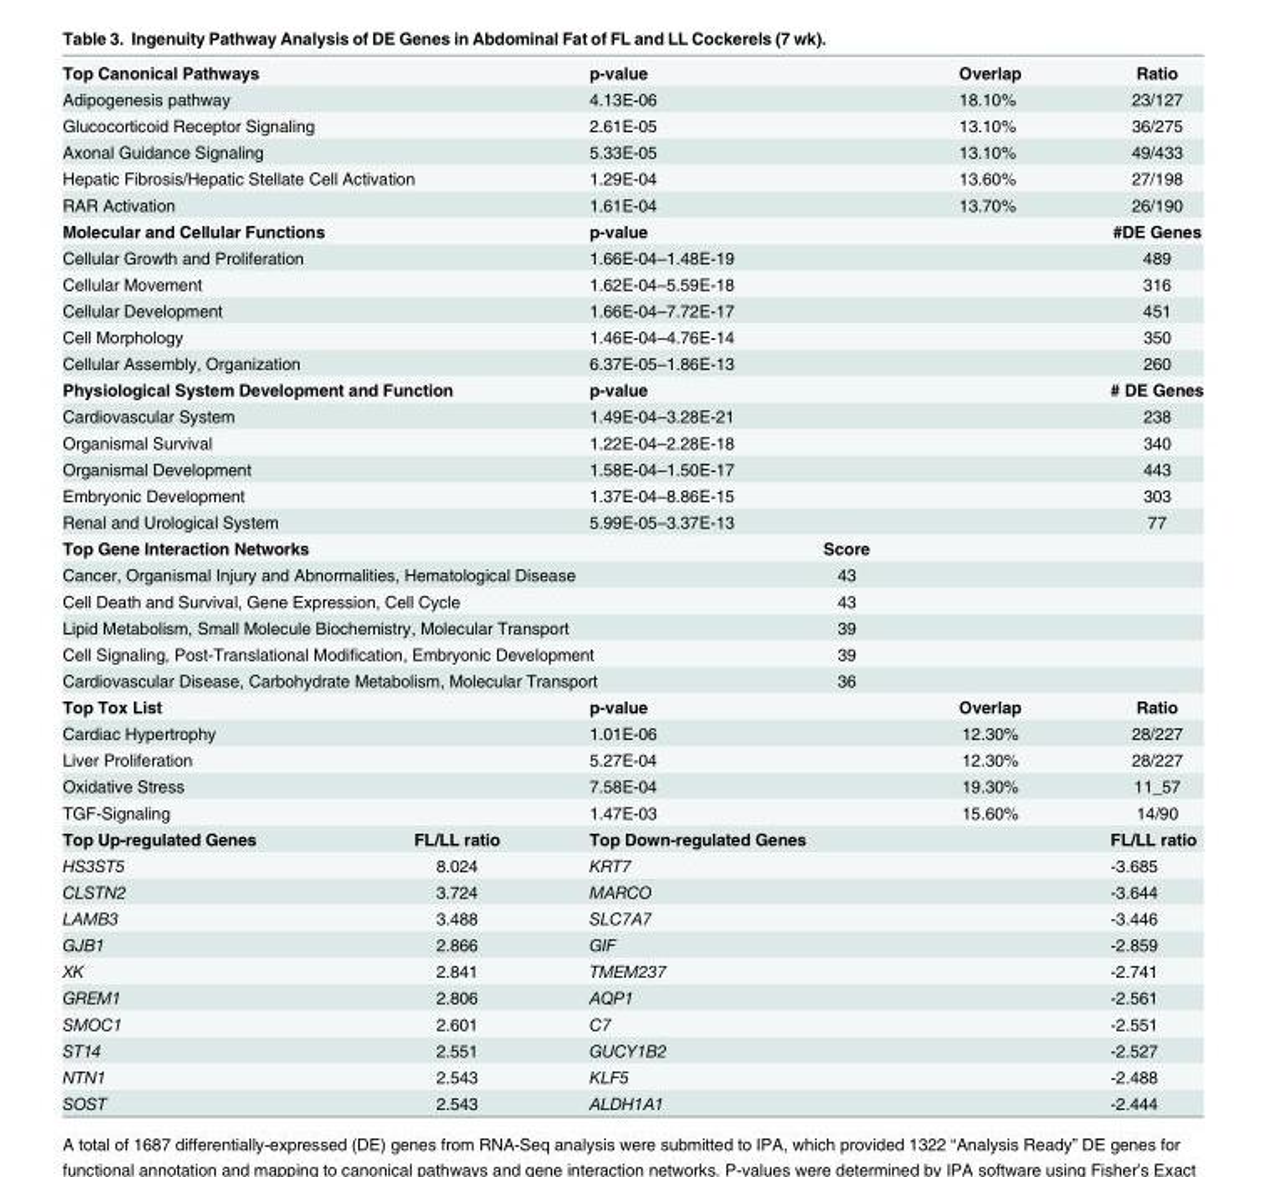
<table><tbody><tr><td>Top Canonical Pathways</td><td></td><td>p-value</td><td></td><td>Overlap</td><td>Ratio</td></tr><tr><td>Adipogenesis pathway</td><td></td><td>4.13E-06</td><td></td><td>18.10%</td><td>23/127</td></tr><tr><td>Glucocorticoid Receptor Signaling</td><td></td><td>2.61E-05</td><td></td><td>13.10%</td><td>36/275</td></tr><tr><td>Axonal Guidance Signaling</td><td></td><td>5.33E-05</td><td></td><td>13.10%</td><td>49/433</td></tr><tr><td colspan="2">Hepatic Fibrosis/Hepatic Stellate Cell Activation</td><td>1.29E-04</td><td></td><td>13.60%</td><td>27/198</td></tr><tr><td colspan="2">RAR Activation</td><td>1.61E-04</td><td></td><td>13.70%</td><td>26/190</td></tr><tr><td>Molecular and Cellular Functions</td><td></td><td>p-value</td><td></td><td></td><td>#DE Genes</td></tr><tr><td>Cellular Growth and Proliferation</td><td></td><td>1.66E-04–1.48E-19</td><td></td><td></td><td>489</td></tr><tr><td>Cellular Movement</td><td></td><td>1.62E-04–5.59E-18</td><td></td><td></td><td>316</td></tr><tr><td>Cellular Development</td><td></td><td>1.66E-04–7.72E-17</td><td></td><td></td><td>451</td></tr><tr><td>Cell Morphology</td><td></td><td>1.46E-04–4.76E-14</td><td></td><td></td><td>350</td></tr><tr><td>Cellular Assembly, Organization</td><td></td><td>6.37E-05–1.86E-13</td><td></td><td></td><td>260</td></tr><tr><td colspan="2">Physiological System Development and Function</td><td>p-value</td><td></td><td></td><td># DE Genes</td></tr><tr><td>Cardiovascular System</td><td></td><td>1.49E-04–3.28E-21</td><td></td><td></td><td>238</td></tr><tr><td>Organismal Survival</td><td></td><td>1.22E-04–2.28E-18</td><td></td><td></td><td>340</td></tr><tr><td>Organismal Development</td><td></td><td>1.58E-04–1.50E-17</td><td></td><td></td><td>443</td></tr><tr><td>Embryonic Development</td><td></td><td>1.37E-04–8.86E-15</td><td></td><td></td><td>303</td></tr><tr><td>Renal and Urological System</td><td></td><td>5.99E-05–3.37E-13</td><td></td><td></td><td>77</td></tr><tr><td>Top Gene Interaction Networks</td><td></td><td></td><td>Score</td><td></td><td></td></tr><tr><td colspan="3">Cancer, Organismal Injury and Abnormalities, Hematological Disease</td><td>43</td><td></td><td></td></tr><tr><td colspan="2">Cell Death and Survival, Gene Expression, Cell Cycle</td><td></td><td>43</td><td></td><td></td></tr><tr><td colspan="3">Lipid Metabolism, Small Molecule Biochemistry, Molecular Transport</td><td>39</td><td></td><td></td></tr><tr><td colspan="3">Cell Signaling, Post-Translational Modification, Embryonic Development</td><td>39</td><td></td><td></td></tr><tr><td colspan="3">Cardiovascular Disease, Carbohydrate Metabolism, Molecular Transport</td><td>36</td><td></td><td></td></tr><tr><td>Top Tox List</td><td></td><td>p-value</td><td></td><td>Overlap</td><td>Ratio</td></tr><tr><td>Cardiac Hypertrophy</td><td></td><td>1.01E-06</td><td></td><td>12.30%</td><td>28/227</td></tr><tr><td>Liver Proliferation</td><td></td><td>5.27E-04</td><td></td><td>12.30%</td><td>28/227</td></tr><tr><td>Oxidative Stress</td><td></td><td>7.58E-04</td><td></td><td>19.30%</td><td>11_57</td></tr><tr><td>TGF-Signaling</td><td></td><td>1.47E-03</td><td></td><td>15.60%</td><td>14/90</td></tr><tr><td>Top Up-regulated Genes</td><td>FL/LL ratio</td><td colspan="2">Top Down-regulated Genes</td><td></td><td>FL/LL ratio</td></tr><tr><td>HS3ST5</td><td>8.024</td><td colspan="3">KRT7</td><td>-3.685</td></tr><tr><td>CLSTN2</td><td>3.724</td><td colspan="3">MARCO</td><td>-3.644</td></tr><tr><td>LAMB3</td><td>3.488</td><td colspan="3">SLC7A7</td><td>-3.446</td></tr><tr><td>GJB1</td><td>2.866</td><td colspan="3">GIF</td><td>-2.859</td></tr><tr><td>XK</td><td>2.841</td><td colspan="3">TMEM237</td><td>-2.741</td></tr><tr><td>GREM1</td><td>2.806</td><td colspan="3">AQP1</td><td>-2.561</td></tr><tr><td>SMOC1</td><td>2.601</td><td colspan="3">C7</td><td>-2.551</td></tr><tr><td>ST14</td><td>2.551</td><td colspan="3">GUCY1B2</td><td>-2.527</td></tr><tr><td>NTN1</td><td>2.543</td><td colspan="3">KLF5</td><td>-2.488</td></tr><tr><td>SOST</td><td>2.543</td><td colspan="3">ALDH1A1</td><td>-2.444</td></tr></tbody></table>